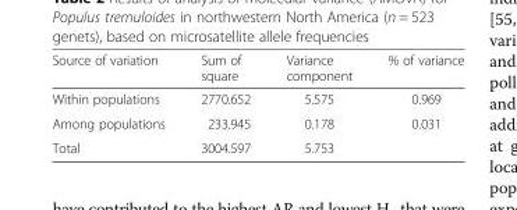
<table><thead><tr><td>Source of variation</td><td>Sum of square</td><td>Variance component</td><td>% of variance</td></tr></thead><tbody><tr><td>Within populations</td><td>2770.652</td><td>5.575</td><td>0.969</td></tr><tr><td>Among populations</td><td>233.945</td><td>0.178</td><td>0.031</td></tr><tr><td>Total</td><td>3004.597</td><td>5.753</td><td></td></tr></tbody></table>